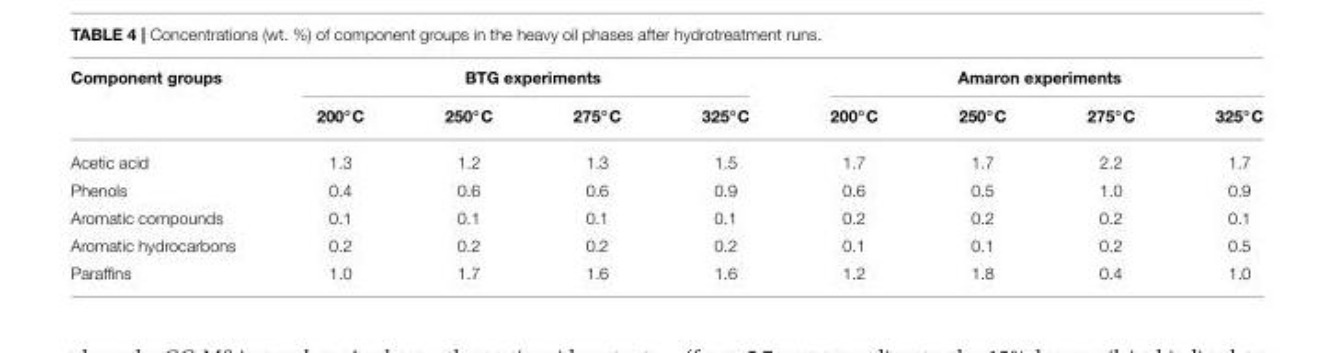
<table><thead><tr><td rowspan="2">Component groups</td><td colspan="4">BTG experiments</td><td colspan="4">Amaron experiments</td></tr><tr><td>200◦C</td><td>250◦C</td><td>275◦C</td><td>325◦C</td><td>200◦C</td><td>250◦C</td><td>275◦C</td><td>325◦C</td></tr></thead><tbody><tr><td>Acetic acid</td><td>1.3</td><td>1.2</td><td>1.3</td><td>1.5</td><td>1.7</td><td>1.7</td><td>2.2</td><td>1.7</td></tr><tr><td>Phenols</td><td>0.4</td><td>0.6</td><td>0.6</td><td>0.9</td><td>0.6</td><td>0.5</td><td>1.0</td><td>0.9</td></tr><tr><td>Aromatic compounds</td><td>0.1</td><td>0.1</td><td>0.1</td><td>0.1</td><td>0.2</td><td>0.2</td><td>0.2</td><td>0.1</td></tr><tr><td>Aromatic hydrocarbons</td><td>0.2</td><td>0.2</td><td>0.2</td><td>0.2</td><td>0.1</td><td>0.1</td><td>0.2</td><td>0.5</td></tr><tr><td>Paraffins</td><td>1.0</td><td>1.7</td><td>1.6</td><td>1.6</td><td>1.2</td><td>1.8</td><td>0.4</td><td>1.0</td></tr></tbody></table>